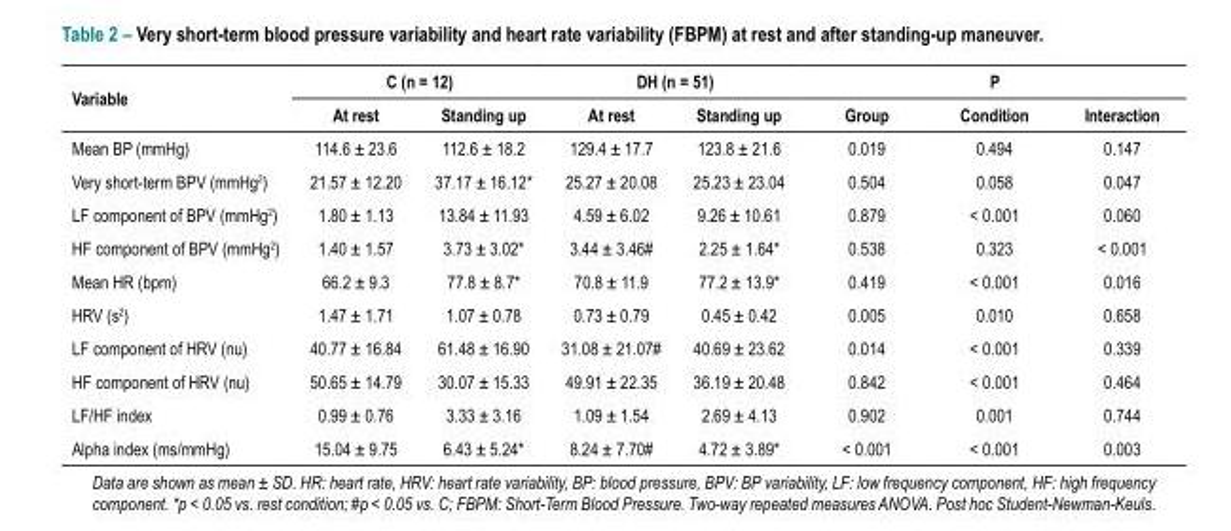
<table><thead><tr><td rowspan="2">Variable</td><td colspan="2">C (n = 12)</td><td colspan="2">DH (n = 51)</td><td colspan="3">P</td></tr><tr><td>At rest</td><td>Standing up</td><td>At rest</td><td>Standing up</td><td>Group</td><td>Condition</td><td>Interaction</td></tr></thead><tbody><tr><td>Mean BP (mmHg)</td><td>114.6 ± 23.6</td><td>112.6 ± 18.2</td><td>129.4 ± 17.7</td><td>123.8 ± 21.6</td><td>0.019</td><td>0.494</td><td>0.147</td></tr><tr><td>Very short-term BPV (mmHg<sup>2</sup>)</td><td>21.57 ± 12.20</td><td>37.17 ± 16.12*</td><td>25.27 ± 20.08</td><td>25.23 ± 23.04</td><td>0.504</td><td>0.058</td><td>0.047</td></tr><tr><td>LF component of BPV (mmHg<sup>2</sup>)</td><td>1.80 ± 1.13</td><td>13.84 ± 11.93</td><td>4.59 ± 6.02</td><td>9.26 ± 10.61</td><td>0.879</td><td>&lt; 0.001</td><td>0.060</td></tr><tr><td>HF component of BPV (mmHg<sup>2</sup>)</td><td>1.40 ± 1.57</td><td>3.73 ± 3.02*</td><td>3.44 ± 3.46#</td><td>2.25 ± 1.64*</td><td>0.538</td><td>0.323</td><td>&lt; 0.001</td></tr><tr><td>Mean HR (bpm)</td><td>66.2 ± 9.3</td><td>77.8 ± 8.7*</td><td>70.8 ± 11.9</td><td>77.2 ± 13.9*</td><td>0.419</td><td>&lt; 0.001</td><td>0.016</td></tr><tr><td>HRV (s<sup>2</sup>)</td><td>1.47 ± 1.71</td><td>1.07 ± 0.78</td><td>0.73 ± 0.79</td><td>0.45 ± 0.42</td><td>0.005</td><td>0.010</td><td>0.658</td></tr><tr><td>LF component of HRV (nu)</td><td>40.77 ± 16.84</td><td>61.48 ± 16.90</td><td>31.08 ± 21.07#</td><td>40.69 ± 23.62</td><td>0.014</td><td>&lt; 0.001</td><td>0.339</td></tr><tr><td>HF component of HRV (nu)</td><td>50.65 ± 14.79</td><td>30.07 ± 15.33</td><td>49.91 ± 22.35</td><td>36.19 ± 20.48</td><td>0.842</td><td>&lt; 0.001</td><td>0.464</td></tr><tr><td>LF/HF index</td><td>0.99 ± 0.76</td><td>3.33 ± 3.16</td><td>1.09 ± 1.54</td><td>2.69 ± 4.13</td><td>0.902</td><td>0.001</td><td>0.744</td></tr><tr><td>Alpha index (ms/mmHg)</td><td>15.04 ± 9.75</td><td>6.43 ± 5.24*</td><td>8.24 ± 7.70#</td><td>4.72 ± 3.89*</td><td>&lt; 0.001</td><td>&lt; 0.001</td><td>0.003</td></tr></tbody></table>